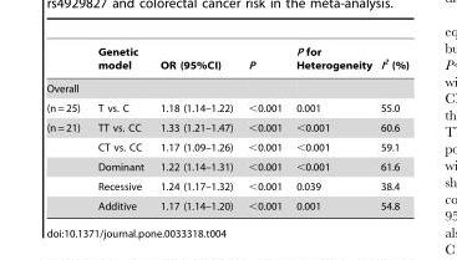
<table><thead><tr><td></td><td>Genetic model</td><td>OR (95%CI)</td><td>P</td><td>P for Heterogeneity</td><td>I<sup>2</sup> (%)</td></tr></thead><tbody><tr><td colspan="6">Overall</td></tr><tr><td>(n = 25)</td><td>T vs. C</td><td>1.18 (1.14–1.22)</td><td>&lt;0.001</td><td>0.001</td><td>55.0</td></tr><tr><td rowspan="5">(n = 21)</td><td>TT vs. CC</td><td>1.33 (1.21–1.47)</td><td>&lt;0.001</td><td>&lt;0.001</td><td>60.6</td></tr><tr><td>CT vs. CC</td><td>1.17 (1.09–1.26)</td><td>&lt;0.001</td><td>&lt;0.001</td><td>59.1</td></tr><tr><td>Dominant</td><td>1.22 (1.14–1.31)</td><td>&lt;0.001</td><td>&lt;0.001</td><td>61.6</td></tr><tr><td>Recessive</td><td>1.24 (1.17–1.32)</td><td>&lt;0.001</td><td>0.039</td><td>38.4</td></tr><tr><td>Additive</td><td>1.17 (1.14–1.20)</td><td>&lt;0.001</td><td>0.001</td><td>54.8</td></tr></tbody></table>